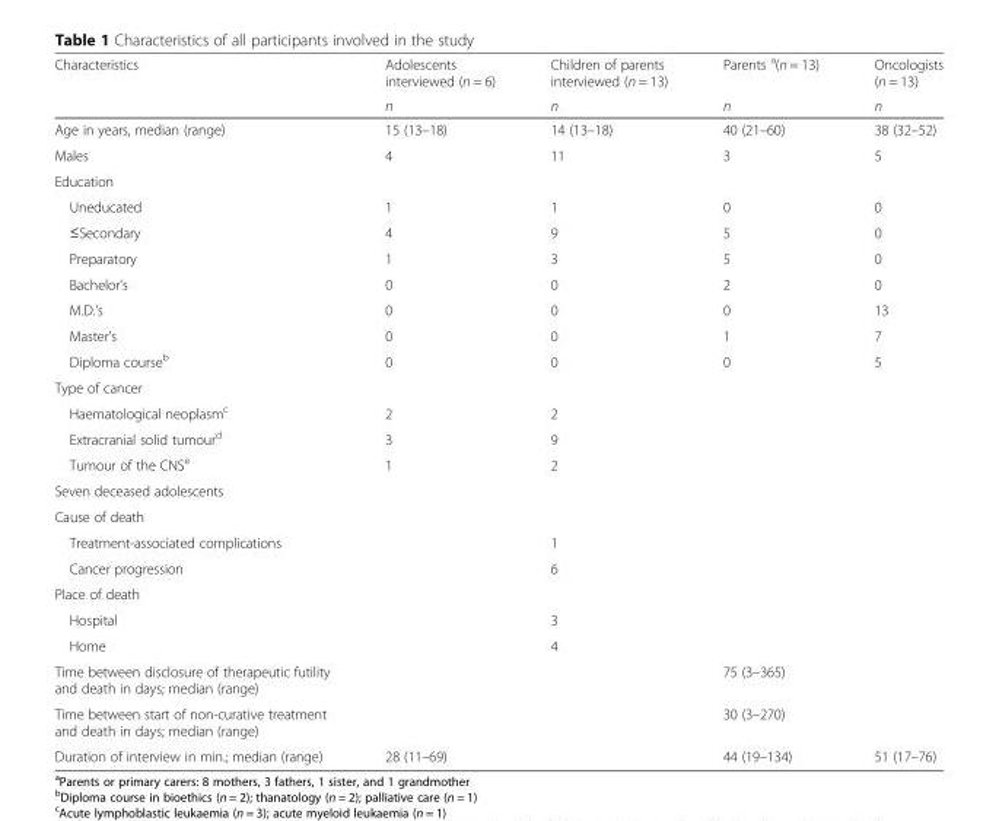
<table><thead><tr><td rowspan="2">Characteristics</td><td rowspan="2">Adolescents interviewed (n = 6) n</td><td rowspan="2">Children of parents interviewed (n = 13) n</td><td rowspan="2">Parents <sup>a</sup>(n = 13) n</td><td rowspan="2">Oncologists (n = 13) n</td></tr><tr></tr></thead><tbody><tr><td>Age in years, median (range)</td><td>15 (13–18)</td><td>14 (13–18)</td><td>40 (21–60)</td><td>38 (32–52)</td></tr><tr><td>Males</td><td>4</td><td>11</td><td>3</td><td>5</td></tr><tr><td colspan="5">Education</td></tr><tr><td>Uneducated</td><td>1</td><td>1</td><td>0</td><td>0</td></tr><tr><td>≤Secondary</td><td>4</td><td>9</td><td>5</td><td>0</td></tr><tr><td>Preparatory</td><td>1</td><td>3</td><td>5</td><td>0</td></tr><tr><td>Bachelor’s</td><td>0</td><td>0</td><td>2</td><td>0</td></tr><tr><td>M.D.’s</td><td>0</td><td>0</td><td>0</td><td>13</td></tr><tr><td>Master’s</td><td>0</td><td>0</td><td>1</td><td>7</td></tr><tr><td>Diploma course<sup>b</sup></td><td>0</td><td>0</td><td>0</td><td>5</td></tr><tr><td colspan="5">Type of cancer</td></tr><tr><td>Haematological neoplasm<sup>c</sup></td><td>2</td><td>2</td><td></td><td></td></tr><tr><td>Extracranial solid tumour<sup>d</sup></td><td>3</td><td>9</td><td></td><td></td></tr><tr><td>Tumour of the CNS<sup>e</sup></td><td>1</td><td>2</td><td></td><td></td></tr><tr><td colspan="5">Seven deceased adolescents</td></tr><tr><td colspan="5">Cause of death</td></tr><tr><td>Treatment-associated complications</td><td></td><td>1</td><td></td><td></td></tr><tr><td>Cancer progression</td><td></td><td>6</td><td></td><td></td></tr><tr><td colspan="5">Place of death</td></tr><tr><td>Hospital</td><td></td><td>3</td><td></td><td></td></tr><tr><td>Home</td><td></td><td>4</td><td></td><td></td></tr><tr><td>Time between disclosure of therapeutic futility and death in days; median (range)</td><td></td><td></td><td>75 (3–365)</td><td></td></tr><tr><td>Time between start of non-curative treatment and death in days; median (range)</td><td></td><td></td><td>30 (3–270)</td><td></td></tr><tr><td>Duration of interview in min.; median (range)</td><td>28 (11–69)</td><td></td><td>44 (19–134)</td><td>51 (17–76)</td></tr></tbody></table>